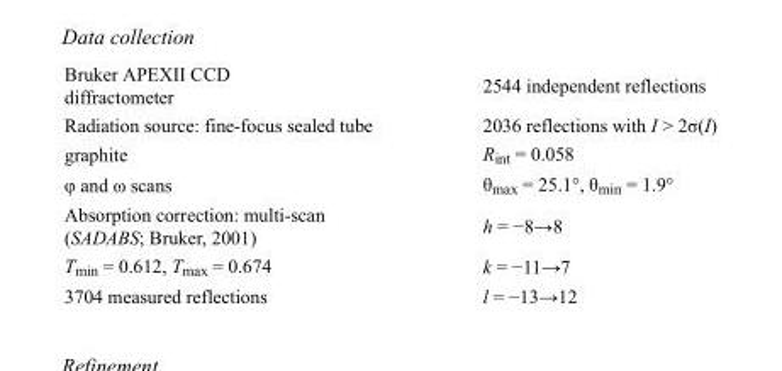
<table><tbody><tr><td>Bruker APEXII CCD diffractometer</td><td>2544 independent reflections</td></tr><tr><td>Radiation source: fine-focus sealed tube</td><td>2036 reflections with I &gt; 2σ(I)</td></tr><tr><td>graphite</td><td>R<sub>int</sub> = 0.058</td></tr><tr><td>φ and ω scans</td><td>θ<sub>max</sub> = 25.1°, θ<sub>min</sub> = 1.9°</td></tr><tr><td>Absorption correction: multi-scan (SADABS; Bruker, 2001)</td><td>h = −8→8</td></tr><tr><td>T<sub>min</sub> = 0.612, T<sub>max</sub> = 0.674</td><td>k = −11→7</td></tr><tr><td>3704 measured reflections</td><td>l = −13→12</td></tr></tbody></table>